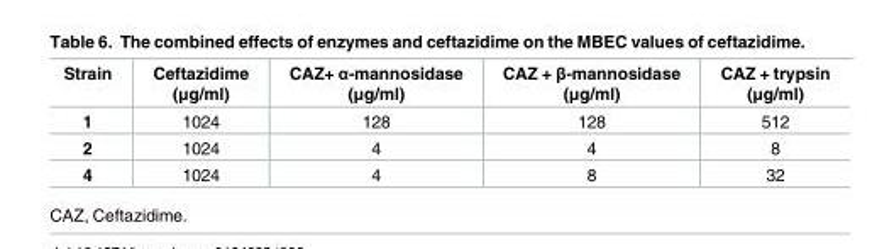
<table><thead><tr><td>Strain</td><td>Ceftazidime (μg/ml)</td><td>CAZ+ α-mannosidase (μg/ml)</td><td>CAZ + β-mannosidase (μg/ml)</td><td>CAZ + trypsin (μg/ml)</td></tr></thead><tbody><tr><td>1</td><td>1024</td><td>128</td><td>128</td><td>512</td></tr><tr><td>2</td><td>1024</td><td>4</td><td>4</td><td>8</td></tr><tr><td>4</td><td>1024</td><td>4</td><td>8</td><td>32</td></tr></tbody></table>